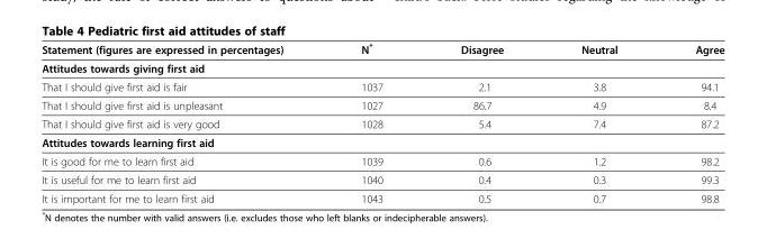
<table><thead><tr><td>Statement (figures are expressed in percentages)</td><td>N*</td><td>Disagree</td><td>Neutral</td><td>Agree</td></tr></thead><tbody><tr><td colspan="5">Attitudes towards giving first aid</td></tr><tr><td>That I should give first aid is fair</td><td>1037</td><td>2.1</td><td>3.8</td><td>94.1</td></tr><tr><td>That I should give first aid is unpleasant</td><td>1027</td><td>86.7</td><td>4.9</td><td>8.4</td></tr><tr><td>That I should give first aid is very good</td><td>1028</td><td>5.4</td><td>7.4</td><td>87.2</td></tr><tr><td colspan="5">Attitudes towards learning first aid</td></tr><tr><td>It is good for me to learn first aid</td><td>1039</td><td>0.6</td><td>1.2</td><td>98.2</td></tr><tr><td>It is useful for me to learn first aid</td><td>1040</td><td>0.4</td><td>0.3</td><td>99.3</td></tr><tr><td>It is important for me to learn first aid</td><td>1043</td><td>0.5</td><td>0.7</td><td>98.8</td></tr></tbody></table>